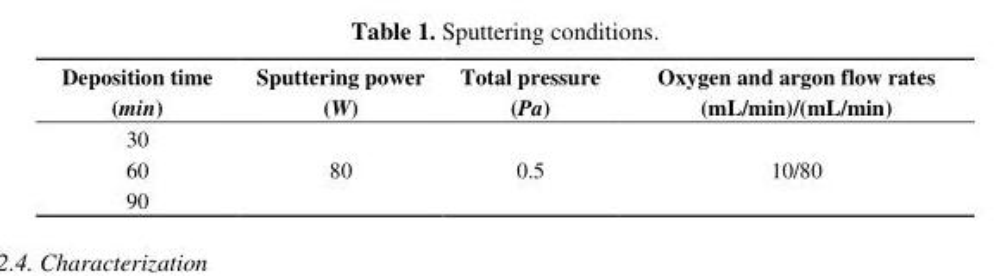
<table><thead><tr><td>Deposition time (min)</td><td>Sputtering power (W)</td><td>Total pressure (Pa)</td><td>Oxygen and argon flow rates (mL/min)/(mL/min)</td></tr></thead><tbody><tr><td>30</td><td rowspan="3">80</td><td rowspan="3">0.5</td><td rowspan="3">10/80</td></tr><tr><td>60</td></tr><tr><td>90</td></tr></tbody></table>